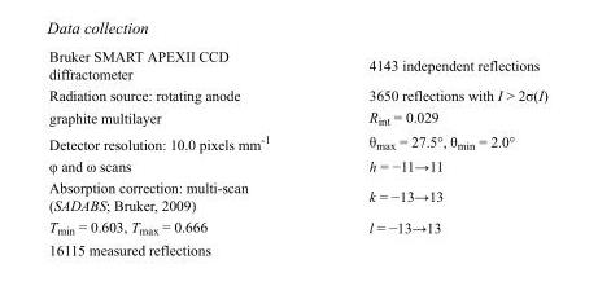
<table><tbody><tr><td>Bruker SMART APEXII CCD diffractometer</td><td>4143 independent reflections</td></tr><tr><td>Radiation source: rotating anode</td><td>3650 reflections with I &gt; 2σ(I)</td></tr><tr><td>graphite multilayer</td><td>R<sub>int</sub> = 0.029</td></tr><tr><td>Detector resolution: 10.0 pixels mm<sup>-1</sup></td><td>θ<sub>max</sub> = 27.5°, θ<sub>min</sub> = 2.0°</td></tr><tr><td>φ and ω scans</td><td>h = −11→11</td></tr><tr><td>Absorption correction: multi-scan (SADABS; Bruker, 2009)</td><td>k = −13→13</td></tr><tr><td>T<sub>min</sub> = 0.603, T<sub>max</sub> = 0.666</td><td>l = −13→13</td></tr><tr><td>16115 measured reflections</td><td></td></tr></tbody></table>